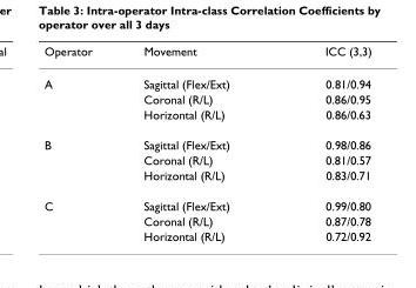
<table><thead><tr><td>Operator</td><td>Movement</td><td>ICC (3,3)</td></tr></thead><tbody><tr><td rowspan="3">A</td><td>Sagittal (Flex/Ext)</td><td>0.81/0.94</td></tr><tr><td>Coronal (R/L)</td><td>0.86/0.95</td></tr><tr><td>Horizontal (R/L)</td><td>0.86/0.63</td></tr><tr><td rowspan="3">B</td><td>Sagittal (Flex/Ext)</td><td>0.98/0.86</td></tr><tr><td>Coronal (R/L)</td><td>0.81/0.57</td></tr><tr><td>Horizontal (R/L)</td><td>0.83/0.71</td></tr><tr><td rowspan="3">C</td><td>Sagittal (Flex/Ext)</td><td>0.99/0.80</td></tr><tr><td>Coronal (R/L)</td><td>0.87/0.78</td></tr><tr><td>Horizontal (R/L)</td><td>0.72/0.92</td></tr></tbody></table>